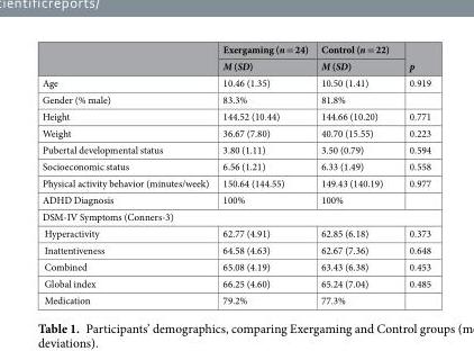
<table><thead><tr><td rowspan="2"></td><td rowspan="2">Exergaming (n = 24) M (SD)</td><td rowspan="2">Control (n = 22) M (SD)</td><td rowspan="2">p</td></tr><tr></tr></thead><tbody><tr><td>Age</td><td>10.46 (1.35)</td><td>10.50 (1.41)</td><td>0.919</td></tr><tr><td>Gender (% male)</td><td>83.3%</td><td>81.8%</td><td></td></tr><tr><td>Height</td><td>144.52 (10.44)</td><td>144.66 (10.20)</td><td>0.771</td></tr><tr><td>Weight</td><td>36.67 (7.80)</td><td>40.70 (15.55)</td><td>0.223</td></tr><tr><td>Pubertal developmental status</td><td>3.80 (1.11)</td><td>3.50 (0.79)</td><td>0.594</td></tr><tr><td>Socioeconomic status</td><td>6.56 (1.21)</td><td>6.33 (1.49)</td><td>0.558</td></tr><tr><td>Physical activity behavior (minutes/week)</td><td>150.64 (144.55)</td><td>149.43 (140.19)</td><td>0.977</td></tr><tr><td>ADHD Diagnosis</td><td>100%</td><td>100%</td><td></td></tr><tr><td colspan="4">DSM-IV Symptoms (Conners-3)</td></tr><tr><td>Hyperactivity</td><td>62.77 (4.91)</td><td>62.85 (6.18)</td><td>0.373</td></tr><tr><td>Inattentiveness</td><td>64.58 (4.63)</td><td>62.67 (7.36)</td><td>0.648</td></tr><tr><td>Combined</td><td>65.08 (4.19)</td><td>63.43 (6.38)</td><td>0.453</td></tr><tr><td>Global index</td><td>66.25 (4.60)</td><td>65.24 (7.04)</td><td>0.485</td></tr><tr><td>Medication</td><td>79.2%</td><td>77.3%</td><td></td></tr></tbody></table>